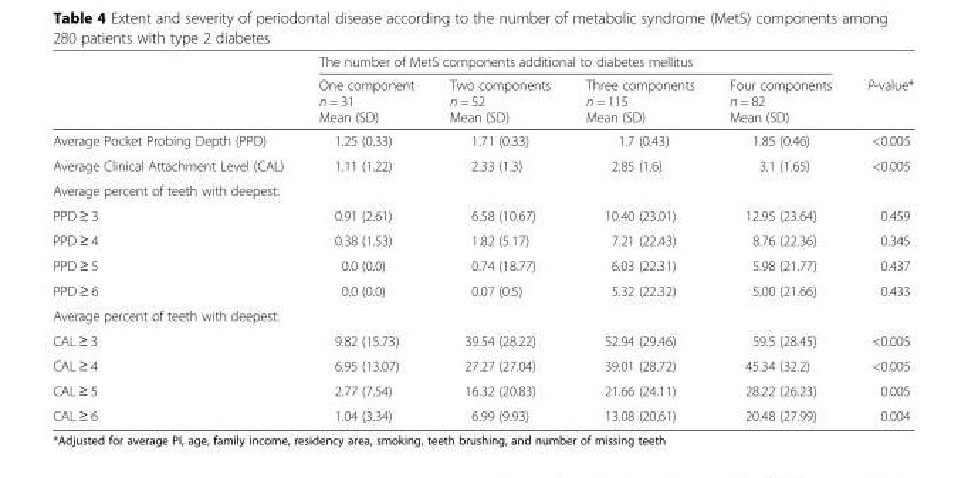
<table><thead><tr><td rowspan="2"></td><td colspan="4">The number of MetS components additional to diabetes mellitus</td><td rowspan="2">P-value*</td></tr><tr><td>One component n = 31 Mean (SD)</td><td>Two components n = 52 Mean (SD)</td><td>Three components n = 115 Mean (SD)</td><td>Four components n = 82 Mean (SD)</td></tr></thead><tbody><tr><td>Average Pocket Probing Depth (PPD)</td><td>1.25 (0.33)</td><td>1.71 (0.33)</td><td>1.7 (0.43)</td><td>1.85 (0.46)</td><td>&lt;0.005</td></tr><tr><td>Average Clinical Attachment Level (CAL)</td><td>1.11 (1.22)</td><td>2.33 (1.3)</td><td>2.85 (1.6)</td><td>3.1 (1.65)</td><td>&lt;0.005</td></tr><tr><td colspan="6">Average percent of teeth with deepest:</td></tr><tr><td>PPD ≥ 3</td><td>0.91 (2.61)</td><td>6.58 (10.67)</td><td>10.40 (23.01)</td><td>12.95 (23.64)</td><td>0.459</td></tr><tr><td>PPD ≥ 4</td><td>0.38 (1.53)</td><td>1.82 (5.17)</td><td>7.21 (22.43)</td><td>8.76 (22.36)</td><td>0.345</td></tr><tr><td>PPD ≥ 5</td><td>0.0 (0.0)</td><td>0.74 (18.77)</td><td>6.03 (22.31)</td><td>5.98 (21.77)</td><td>0.437</td></tr><tr><td>PPD ≥ 6</td><td>0.0 (0.0)</td><td>0.07 (0.5)</td><td>5.32 (22.32)</td><td>5.00 (21.66)</td><td>0.433</td></tr><tr><td colspan="6">Average percent of teeth with deepest:</td></tr><tr><td>CAL ≥ 3</td><td>9.82 (15.73)</td><td>39.54 (28.22)</td><td>52.94 (29.46)</td><td>59.5 (28.45)</td><td>&lt;0.005</td></tr><tr><td>CAL ≥ 4</td><td>6.95 (13.07)</td><td>27.27 (27.04)</td><td>39.01 (28.72)</td><td>45.34 (32.2)</td><td>&lt;0.005</td></tr><tr><td>CAL ≥ 5</td><td>2.77 (7.54)</td><td>16.32 (20.83)</td><td>21.66 (24.11)</td><td>28.22 (26.23)</td><td>0.005</td></tr><tr><td>CAL ≥ 6</td><td>1.04 (3.34)</td><td>6.99 (9.93)</td><td>13.08 (20.61)</td><td>20.48 (27.99)</td><td>0.004</td></tr></tbody></table>